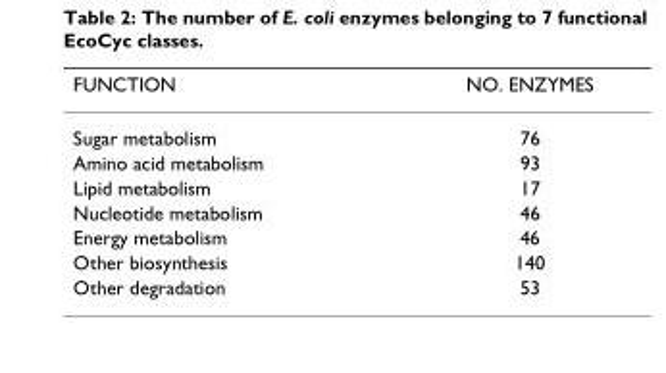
<table><thead><tr><td>FUNCTION</td><td>NO. ENZYMES</td></tr></thead><tbody><tr><td>Sugar metabolism</td><td>76</td></tr><tr><td>Amino acid metabolism</td><td>93</td></tr><tr><td>Lipid metabolism</td><td>17</td></tr><tr><td>Nucleotide metabolism</td><td>46</td></tr><tr><td>Energy metabolism</td><td>46</td></tr><tr><td>Other biosynthesis</td><td>140</td></tr><tr><td>Other degradation</td><td>53</td></tr></tbody></table>